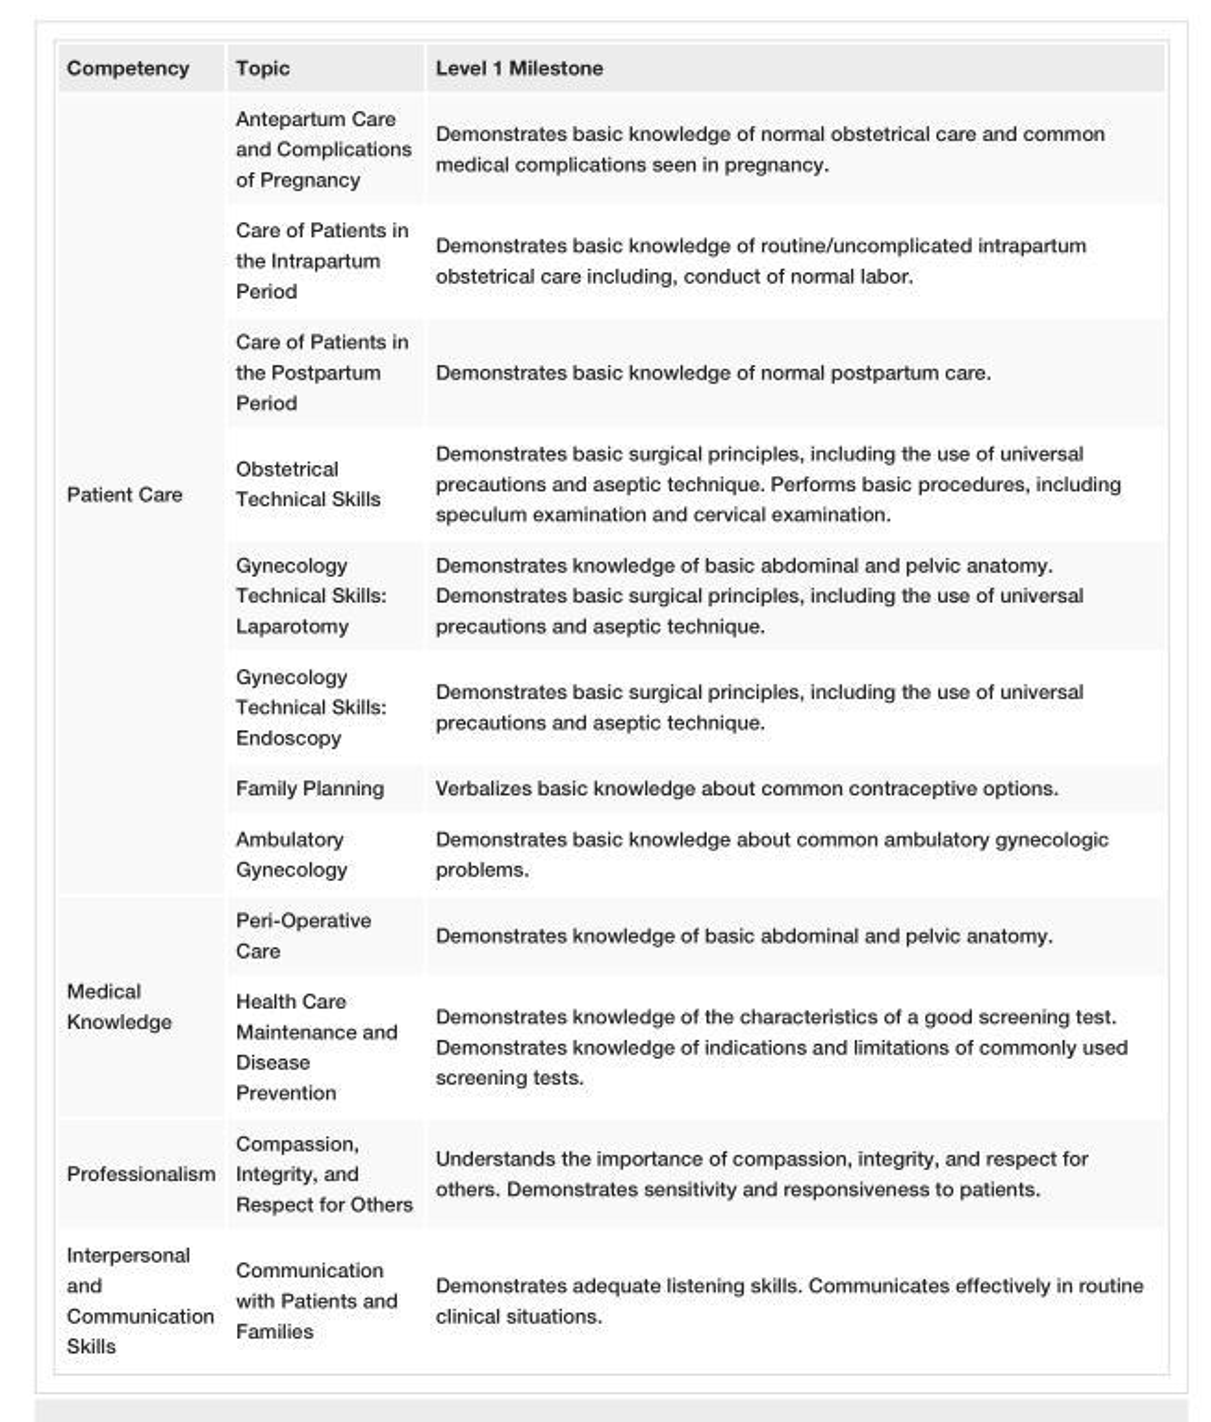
<table><tbody><tr><td>Competency</td><td>Topic</td><td>Level 1 Milestone</td></tr><tr><td rowspan="8">Patient Care</td><td>Antepartum Care and Complications of Pregnancy</td><td>Demonstrates basic knowledge of normal obstetrical care and common medical complications seen in pregnancy.</td></tr><tr><td>Care of Patients in the Intrapartum Period</td><td>Demonstrates basic knowledge of routine/uncomplicated intrapartum obstetrical care including, conduct of normal labor.</td></tr><tr><td>Care of Patients in the Postpartum Period</td><td>Demonstrates basic knowledge of normal postpartum care.</td></tr><tr><td>Obstetrical Technical Skills</td><td>Demonstrates basic surgical principles, including the use of universal precautions and aseptic technique. Performs basic procedures, including speculum examination and cervical examination.</td></tr><tr><td>Gynecology Technical Skills: Laparotomy</td><td>Demonstrates knowledge of basic abdominal and pelvic anatomy. Demonstrates basic surgical principles, including the use of universal precautions and aseptic technique.</td></tr><tr><td>Gynecology Technical Skills: Endoscopy</td><td>Demonstrates basic surgical principles, including the use of universal precautions and aseptic technique.</td></tr><tr><td>Family Planning</td><td>Verbalizes basic knowledge about common contraceptive options.</td></tr><tr><td>Ambulatory Gynecology</td><td>Demonstrates basic knowledge about common ambulatory gynecologic problems.</td></tr><tr><td rowspan="2">Medical Knowledge</td><td>Peri-Operative Care</td><td>Demonstrates knowledge of basic abdominal and pelvic anatomy.</td></tr><tr><td>Health Care Maintenance and Disease Prevention</td><td>Demonstrates knowledge of the characteristics of a good screening test. Demonstrates knowledge of indications and limitations of commonly used screening tests.</td></tr><tr><td>Professionalism</td><td>Compassion, Integrity, and Respect for Others</td><td>Understands the importance of compassion, integrity, and respect for others. Demonstrates sensitivity and responsiveness to patients.</td></tr><tr><td>Interpersonal and Communication Skills</td><td>Communication with Patients and Families</td><td>Demonstrates adequate listening skills. Communicates effectively in routine clinical situations.</td></tr></tbody></table>